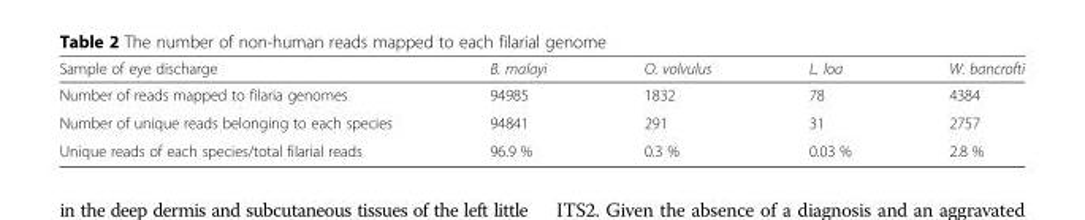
<table><thead><tr><td>Sample of eye discharge</td><td>B. malayi</td><td>O. volvulus</td><td>L. loa</td><td>W. bancrofti</td></tr></thead><tbody><tr><td>Number of reads mapped to filaria genomes</td><td>94985</td><td>1832</td><td>78</td><td>4384</td></tr><tr><td>Number of unique reads belonging to each species</td><td>94841</td><td>291</td><td>31</td><td>2757</td></tr><tr><td>Unique reads of each species/total filarial reads</td><td>96.9 %</td><td>0.3 %</td><td>0.03 %</td><td>2.8 %</td></tr></tbody></table>